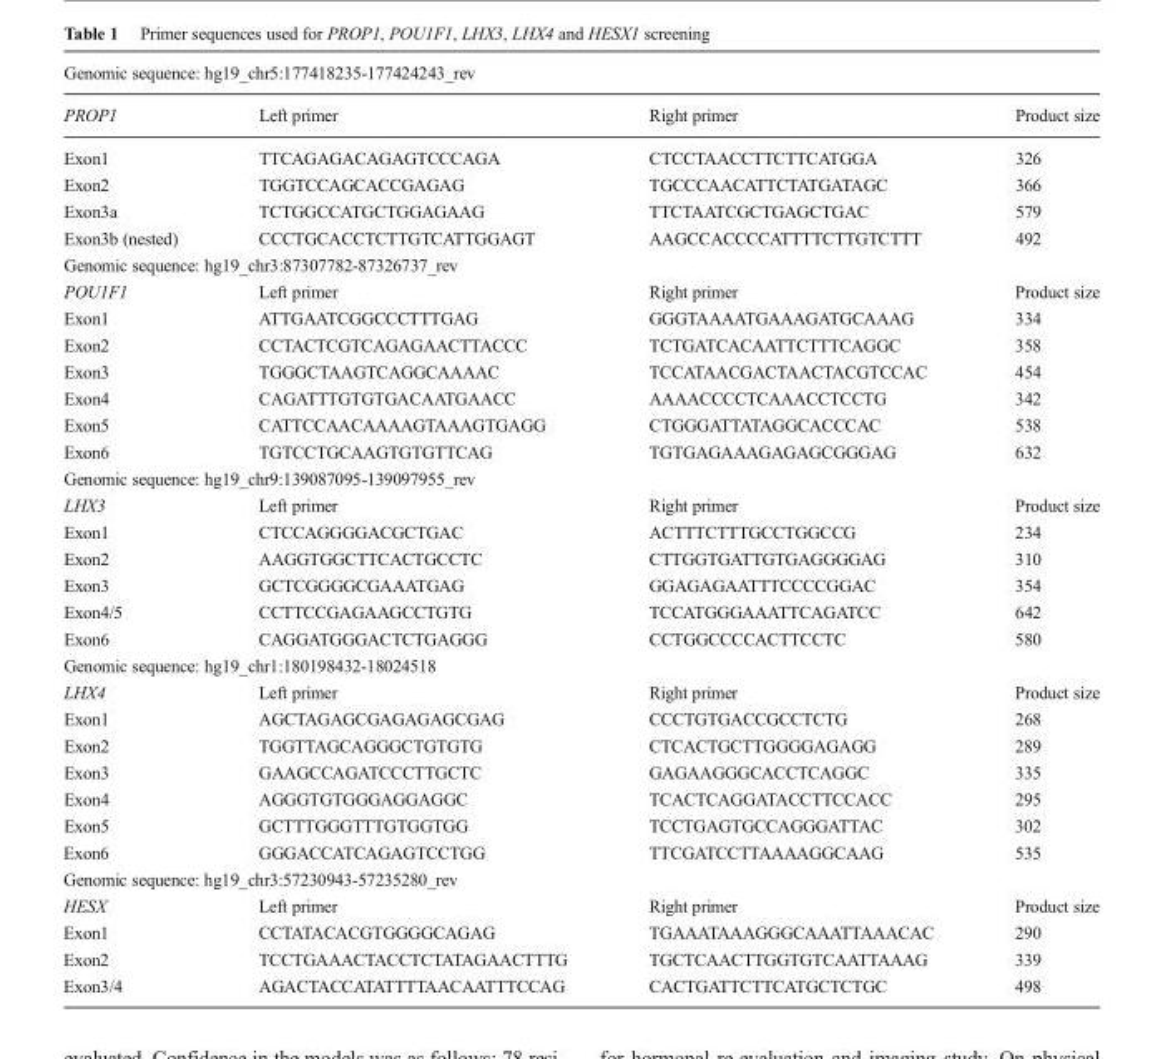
<table><thead><tr><td colspan="4">Genomic sequence: hg19_chr5:177418235-177424243_rev</td></tr><tr><td>PROP1</td><td>Left primer</td><td>Right primer</td><td>Product size</td></tr></thead><tbody><tr><td>Exon1</td><td>TTCAGAGACAGAGTCCCAGA</td><td>CTCCTAACCTTCTTCATGGA</td><td>326</td></tr><tr><td>Exon2</td><td>TGGTCCAGCACCGAGAG</td><td>TGCCCAACATTCTATGATAGC</td><td>366</td></tr><tr><td>Exon3a</td><td>TCTGGCCATGCTGGAGAAG</td><td>TTCTAATCGCTGAGCTGAC</td><td>579</td></tr><tr><td>Exon3b (nested)</td><td>CCCTGCACCTCTTGTCATTGGAGT</td><td>AAGCCACCCCATTTTCTTGTCTTT</td><td>492</td></tr><tr><td colspan="4">Genomic sequence: hg19_chr3:87307782-87326737_rev</td></tr><tr><td>POU1F1</td><td>Left primer</td><td>Right primer</td><td>Product size</td></tr><tr><td>Exon1</td><td>ATTGAATCGGCCCTTTGAG</td><td>GGGTAAAATGAAAGATGCAAAG</td><td>334</td></tr><tr><td>Exon2</td><td>CCTACTCGTCAGAGAACTTACCC</td><td>TCTGATCACAATTCTTTCAGGC</td><td>358</td></tr><tr><td>Exon3</td><td>TGGGCTAAGTCAGGCAAAAC</td><td>TCCATAACGACTAACTACGTCCAC</td><td>454</td></tr><tr><td>Exon4</td><td>CAGATTTGTGTGACAATGAACC</td><td>AAAACCCCTCAAACCTCCTG</td><td>342</td></tr><tr><td>Exon5</td><td>CATTCCAACAAAAGTAAAGTGAGG</td><td>CTGGGATTATAGGCACCCAC</td><td>538</td></tr><tr><td>Exon6</td><td>TGTCCTGCAAGTGTGTTCAG</td><td>TGTGAGAAAGAGAGCGGGAG</td><td>632</td></tr><tr><td colspan="4">Genomic sequence: hg19_chr9:139087095-139097955_rev</td></tr><tr><td>LHX3</td><td>Left primer</td><td>Right primer</td><td>Product size</td></tr><tr><td>Exon1</td><td>CTCCAGGGGACGCTGAC</td><td>ACTTTCTTTGCCTGGCCG</td><td>234</td></tr><tr><td>Exon2</td><td>AAGGTGGCTTCACTGCCTC</td><td>CTTGGTGATTGTGAGGGGAG</td><td>310</td></tr><tr><td>Exon3</td><td>GCTCGGGGCGAAATGAG</td><td>GGAGAGAATTTCCCCGGAC</td><td>354</td></tr><tr><td>Exon4/5</td><td>CCTTCCGAGAAGCCTGTG</td><td>TCCATGGGAAATTCAGATCC</td><td>642</td></tr><tr><td>Exon6</td><td>CAGGATGGGACTCTGAGGG</td><td>CCTGGCCCCACTTCCTC</td><td>580</td></tr><tr><td colspan="4">Genomic sequence: hg19_chr1:180198432-18024518</td></tr><tr><td>LHX4</td><td>Left primer</td><td>Right primer</td><td>Product size</td></tr><tr><td>Exon1</td><td>AGCTAGAGCGAGAGAGCGAG</td><td>CCCTGTGACCGCCTCTG</td><td>268</td></tr><tr><td>Exon2</td><td>TGGTTAGCAGGGCTGTGTG</td><td>CTCACTGCTTGGGGAGAGG</td><td>289</td></tr><tr><td>Exon3</td><td>GAAGCCAGATCCCTTGCTC</td><td>GAGAAGGGCACCTCAGGC</td><td>335</td></tr><tr><td>Exon4</td><td>AGGGTGTGGGAGGAGGC</td><td>TCACTCAGGATACCTTCCACC</td><td>295</td></tr><tr><td>Exon5</td><td>GCTTTGGGTTTGTGGTGG</td><td>TCCTGAGTGCCAGGGATTAC</td><td>302</td></tr><tr><td>Exon6</td><td>GGGACCATCAGAGTCCTGG</td><td>TTCGATCCTTAAAAGGCAAG</td><td>535</td></tr><tr><td colspan="4">Genomic sequence: hg19_chr3:57230943-57235280_rev</td></tr><tr><td>HESX</td><td>Left primer</td><td>Right primer</td><td>Product size</td></tr><tr><td>Exon1</td><td>CCTATACACGTGGGGCAGAG</td><td>TGAAATAAAGGGCAAATTAAACAC</td><td>290</td></tr><tr><td>Exon2</td><td>TCCTGAAACTACCTCTATAGAACTTTG</td><td>TGCTCAACTTGGTGTCAATTAAAG</td><td>339</td></tr><tr><td>Exon3/4</td><td>AGACTACCATATTTTAACAATTTCCAG</td><td>CACTGATTCTTCATGCTCTGC</td><td>498</td></tr></tbody></table>